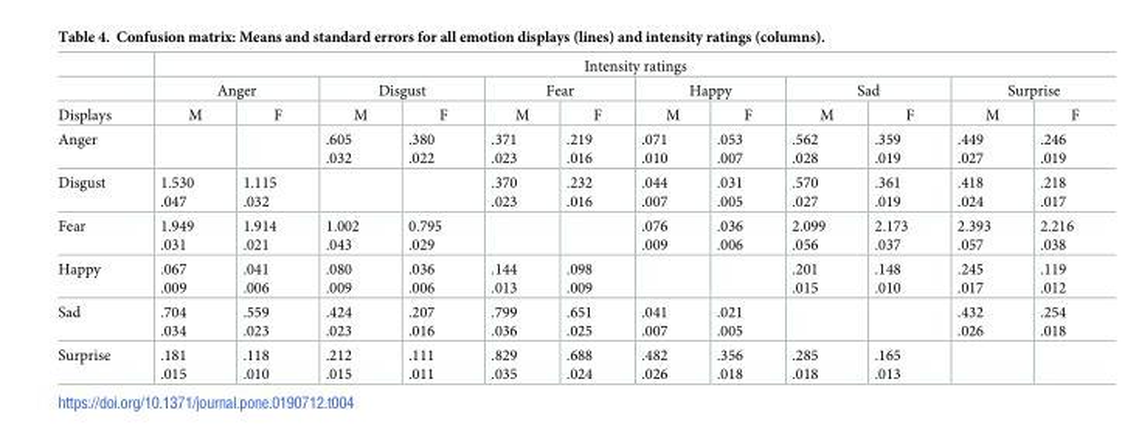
<table><thead><tr><td rowspan="3">Displays</td><td colspan="12">Intensity ratings</td></tr><tr><td colspan="2">Anger</td><td colspan="2">Disgust</td><td colspan="2">Fear</td><td colspan="2">Happy</td><td colspan="2">Sad</td><td colspan="2">Surprise</td></tr><tr><td>M</td><td>F</td><td>M</td><td>F</td><td>M</td><td>F</td><td>M</td><td>F</td><td>M</td><td>F</td><td>M</td><td>F</td></tr></thead><tbody><tr><td>Anger</td><td></td><td></td><td>.605 .032</td><td>.380 .022</td><td>.371 .023</td><td>.219 .016</td><td>.071 .010</td><td>.053 .007</td><td>.562 .028</td><td>.359 .019</td><td>.449 .027</td><td>.246 .019</td></tr><tr><td>Disgust</td><td>1.530 .047</td><td>1.115 .032</td><td></td><td></td><td>.370 .023</td><td>.232 .016</td><td>.044 .007</td><td>.031 .005</td><td>.570 .027</td><td>.361 .019</td><td>.418 .024</td><td>.218 .017</td></tr><tr><td>Fear</td><td>1.949 .031</td><td>1.914 .021</td><td>1.002 .043</td><td>0.795 .029</td><td></td><td></td><td>.076 .009</td><td>.036 .006</td><td>2.099 .056</td><td>2.173 .037</td><td>2.393 .057</td><td>2.216 .038</td></tr><tr><td>Happy</td><td>.067 .009</td><td>.041 .006</td><td>.080 .009</td><td>.036 .006</td><td>.144 .013</td><td>.098 .009</td><td></td><td></td><td>.201 .015</td><td>.148 .010</td><td>.245 .017</td><td>.119 .012</td></tr><tr><td>Sad</td><td>.704 .034</td><td>.559 .023</td><td>.424 .023</td><td>.207 .016</td><td>.799 .036</td><td>.651 .025</td><td>.041 .007</td><td>.021 .005</td><td></td><td></td><td>.432 .026</td><td>.254 .018</td></tr><tr><td>Surprise</td><td>.181 .015</td><td>.118 .010</td><td>.212 .015</td><td>.111 .011</td><td>.829 .035</td><td>.688 .024</td><td>.482 .026</td><td>.356 .018</td><td>.285 .018</td><td>.165 .013</td><td></td><td></td></tr></tbody></table>